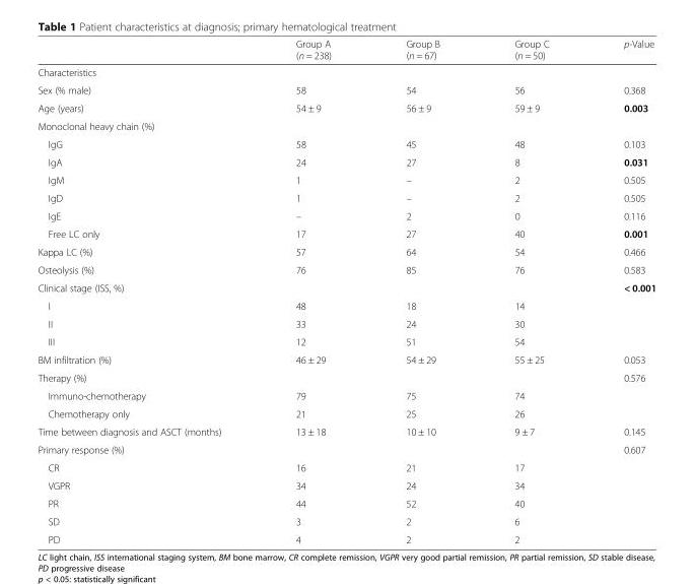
<table><thead><tr><td></td><td>Group A (n = 238)</td><td>Group B (n = 67)</td><td>Group C (n = 50)</td><td>p-Value</td></tr></thead><tbody><tr><td colspan="5">Characteristics</td></tr><tr><td>Sex (% male)</td><td>58</td><td>54</td><td>56</td><td>0.368</td></tr><tr><td>Age (years)</td><td>54 ± 9</td><td>56 ± 9</td><td>59 ± 9</td><td>0.003</td></tr><tr><td colspan="5">Monoclonal heavy chain (%)</td></tr><tr><td>IgG</td><td>58</td><td>45</td><td>48</td><td>0.103</td></tr><tr><td>IgA</td><td>24</td><td>27</td><td>8</td><td>0.031</td></tr><tr><td>IgM</td><td>1</td><td>–</td><td>2</td><td>0.505</td></tr><tr><td>IgD</td><td>1</td><td>–</td><td>2</td><td>0.505</td></tr><tr><td>IgE</td><td>–</td><td>2</td><td>0</td><td>0.116</td></tr><tr><td>Free LC only</td><td>17</td><td>27</td><td>40</td><td>0.001</td></tr><tr><td>Kappa LC (%)</td><td>57</td><td>64</td><td>54</td><td>0.466</td></tr><tr><td>Osteolysis (%)</td><td>76</td><td>85</td><td>76</td><td>0.583</td></tr><tr><td>Clinical stage (ISS, %)</td><td></td><td></td><td></td><td>&lt; 0.001</td></tr><tr><td>I</td><td>48</td><td>18</td><td>14</td><td></td></tr><tr><td>II</td><td>33</td><td>24</td><td>30</td><td></td></tr><tr><td>III</td><td>12</td><td>51</td><td>54</td><td></td></tr><tr><td>BM infiltration (%)</td><td>46 ± 29</td><td>54 ± 29</td><td>55 ± 25</td><td>0.053</td></tr><tr><td>Therapy (%)</td><td></td><td></td><td></td><td>0.576</td></tr><tr><td>Immuno-chemotherapy</td><td>79</td><td>75</td><td>74</td><td></td></tr><tr><td>Chemotherapy only</td><td>21</td><td>25</td><td>26</td><td></td></tr><tr><td>Time between diagnosis and ASCT (months)</td><td>13 ± 18</td><td>10 ± 10</td><td>9 ± 7</td><td>0.145</td></tr><tr><td>Primary response (%)</td><td></td><td></td><td></td><td>0.607</td></tr><tr><td>CR</td><td>16</td><td>21</td><td>17</td><td></td></tr><tr><td>VGPR</td><td>34</td><td>24</td><td>34</td><td></td></tr><tr><td>PR</td><td>44</td><td>52</td><td>40</td><td></td></tr><tr><td>SD</td><td>3</td><td>2</td><td>6</td><td></td></tr><tr><td>PD</td><td>4</td><td>2</td><td>2</td><td></td></tr></tbody></table>